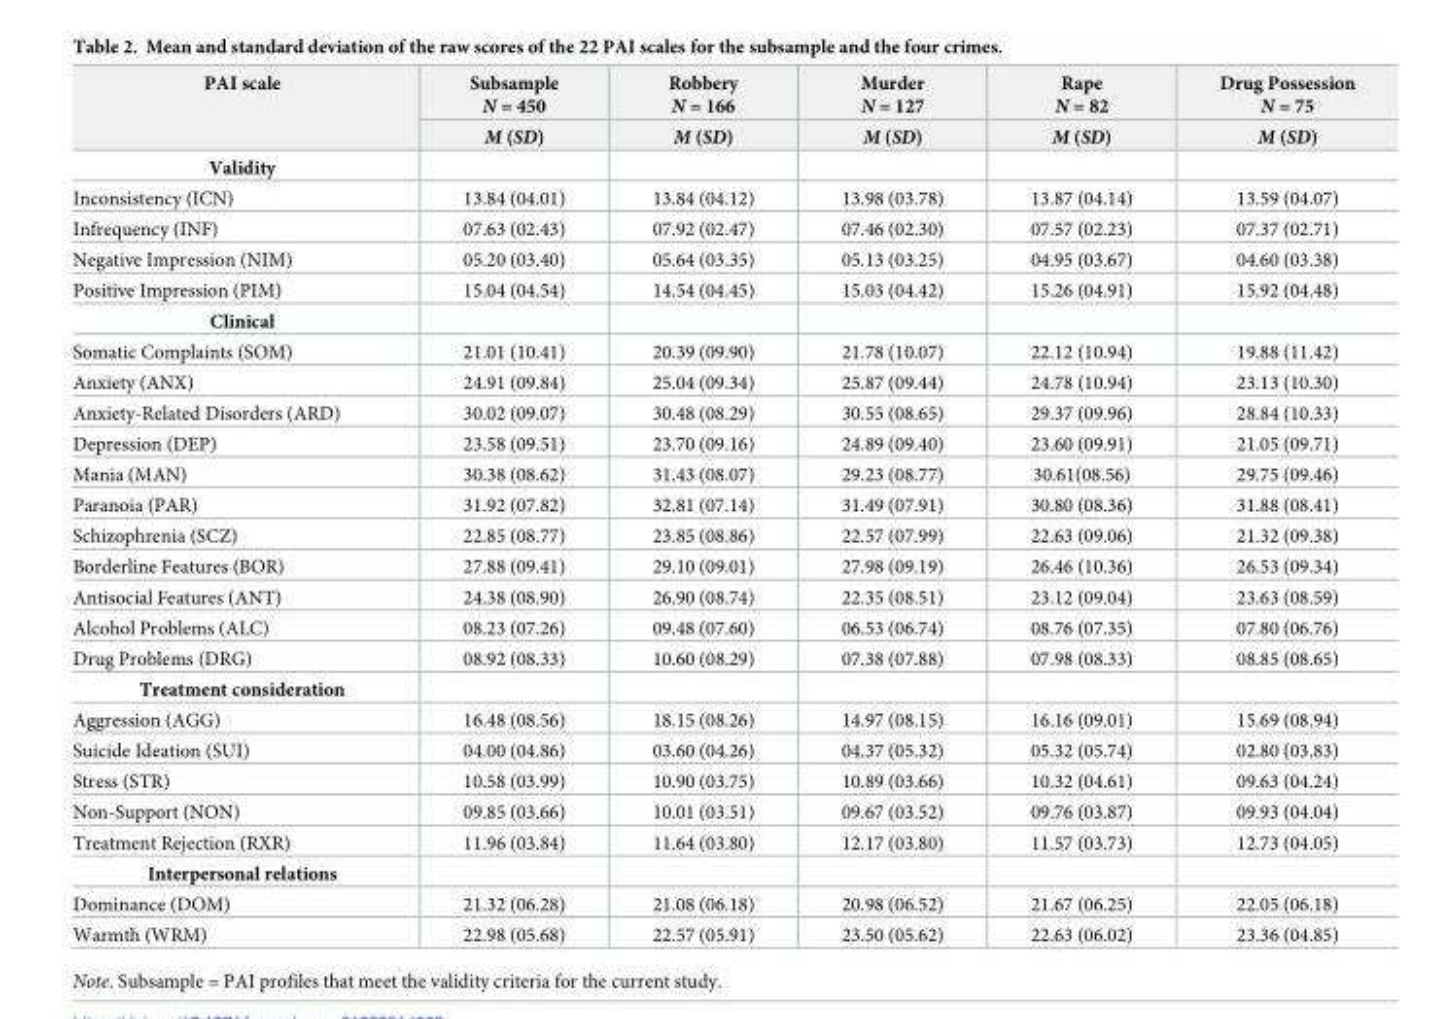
<table><thead><tr><td rowspan="2">PAI scale</td><td rowspan="2">Subsample N = 450 M (SD)</td><td rowspan="2">Robbery N = 166 M (SD)</td><td rowspan="2">Murder N = 127 M (SD)</td><td rowspan="2">Rape N = 82 M (SD)</td><td rowspan="2">Drug Possession N = 75 M (SD)</td></tr><tr></tr></thead><tbody><tr><td colspan="6">Validity</td></tr><tr><td>Inconsistency (ICN)</td><td>13.84 (04.01)</td><td>13.84 (04.12)</td><td>13.98 (03.78)</td><td>13.87 (04.14)</td><td>13.59 (04.07)</td></tr><tr><td>Infrequency (INF)</td><td>07.63 (02.43)</td><td>07.92 (02.47)</td><td>07.46 (02.30)</td><td>07.57 (02.23)</td><td>07.37 (02.71)</td></tr><tr><td>Negative Impression (NIM)</td><td>05.20 (03.40)</td><td>05.64 (03.35)</td><td>05.13 (03.25)</td><td>04.95 (03.67)</td><td>04.60 (03.38)</td></tr><tr><td>Positive Impression (PIM)</td><td>15.04 (04.54)</td><td>14.54 (04.45)</td><td>15.03 (04.42)</td><td>15.26 (04.91)</td><td>15.92 (04.48)</td></tr><tr><td colspan="6">Clinical</td></tr><tr><td>Somatic Complaints (SOM)</td><td>21.01 (10.41)</td><td>20.39 (09.90)</td><td>21.78 (10.07)</td><td>22.12 (10.94)</td><td>19.88 (11.42)</td></tr><tr><td>Anxiety (ANX)</td><td>24.91 (09.84)</td><td>25.04 (09.34)</td><td>25.87 (09.44)</td><td>24.78 (10.94)</td><td>23.13 (10.30)</td></tr><tr><td>Anxiety-Related Disorders (ARD)</td><td>30.02 (09.07)</td><td>30.48 (08.29)</td><td>30.55 (08.65)</td><td>29.37 (09.96)</td><td>28.84 (10.33)</td></tr><tr><td>Depression (DEP)</td><td>23.58 (09.51)</td><td>23.70 (09.16)</td><td>24.89 (09.40)</td><td>23.60 (09.91)</td><td>21.05 (09.71)</td></tr><tr><td>Mania (MAN)</td><td>30.38 (08.62)</td><td>31.43 (08.07)</td><td>29.23 (08.77)</td><td>30.61(08.56)</td><td>29.75 (09.46)</td></tr><tr><td>Paranoia (PAR)</td><td>31.92 (07.82)</td><td>32.81 (07.14)</td><td>31.49 (07.91)</td><td>30.80 (08.36)</td><td>31.88 (08.41)</td></tr><tr><td>Schizophrenia (SCZ)</td><td>22.85 (08.77)</td><td>23.85 (08.86)</td><td>22.57 (07.99)</td><td>22.63 (09.06)</td><td>21.32 (09.38)</td></tr><tr><td>Borderline Features (BOR)</td><td>27.88 (09.41)</td><td>29.10 (09.01)</td><td>27.98 (09.19)</td><td>26.46 (10.36)</td><td>26.53 (09.34)</td></tr><tr><td>Antisocial Features (ANT)</td><td>24.38 (08.90)</td><td>26.90 (08.74)</td><td>22.35 (08.51)</td><td>23.12 (09.04)</td><td>23.63 (08.59)</td></tr><tr><td>Alcohol Problems (ALC)</td><td>08.23 (07.26)</td><td>09.48 (07.60)</td><td>06.53 (06.74)</td><td>08.76 (07.35)</td><td>07.80 (06.76)</td></tr><tr><td>Drug Problems (DRG)</td><td>08.92 (08.33)</td><td>10.60 (08.29)</td><td>07.38 (07.88)</td><td>07.98 (08.33)</td><td>08.85 (08.65)</td></tr><tr><td colspan="6">Treatment consideration</td></tr><tr><td>Aggression (AGG)</td><td>16.48 (08.56)</td><td>18.15 (08.26)</td><td>14.97 (08.15)</td><td>16.16 (09.01)</td><td>15.69 (08.94)</td></tr><tr><td>Suicide Ideation (SUI)</td><td>04.00 (04.86)</td><td>03.60 (04.26)</td><td>04.37 (05.32)</td><td>05.32 (05.74)</td><td>02.80 (03.83)</td></tr><tr><td>Stress (STR)</td><td>10.58 (03.99)</td><td>10.90 (03.75)</td><td>10.89 (03.66)</td><td>10.32 (04.61)</td><td>09.63 (04.24)</td></tr><tr><td>Non-Support (NON)</td><td>09.85 (03.66)</td><td>10.01 (03.51)</td><td>09.67 (03.52)</td><td>09.76 (03.87)</td><td>09.93 (04.04)</td></tr><tr><td>Treatment Rejection (RXR)</td><td>11.96 (03.84)</td><td>11.64 (03.80)</td><td>12.17 (03.80)</td><td>11.57 (03.73)</td><td>12.73 (04.05)</td></tr><tr><td colspan="6">Interpersonal relations</td></tr><tr><td>Dominance (DOM)</td><td>21.32 (06.28)</td><td>21.08 (06.18)</td><td>20.98 (06.52)</td><td>21.67 (06.25)</td><td>22.05 (06.18)</td></tr><tr><td>Warmth (WRM)</td><td>22.98 (05.68)</td><td>22.57 (05.91)</td><td>23.50 (05.62)</td><td>22.63 (06.02)</td><td>23.36 (04.85)</td></tr></tbody></table>